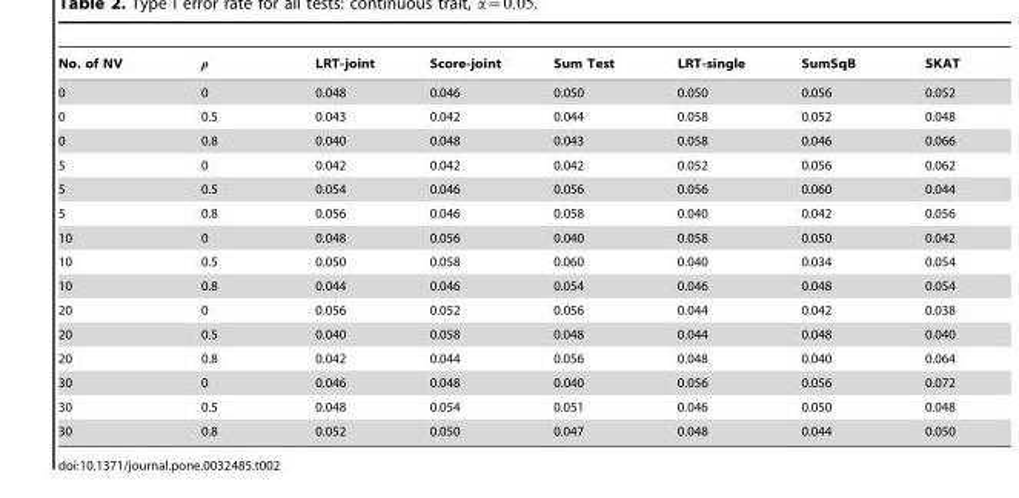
<table><thead><tr><td>No. of NV</td><td>r</td><td>LRT-joint</td><td>Score-joint</td><td>Sum Test</td><td>LRT-single</td><td>SumSqB</td><td>SKAT</td></tr></thead><tbody><tr><td>0</td><td>0</td><td>0.048</td><td>0.046</td><td>0.050</td><td>0.050</td><td>0.056</td><td>0.052</td></tr><tr><td>0</td><td>0.5</td><td>0.043</td><td>0.042</td><td>0.044</td><td>0.058</td><td>0.052</td><td>0.048</td></tr><tr><td>0</td><td>0.8</td><td>0.040</td><td>0.048</td><td>0.043</td><td>0.058</td><td>0.046</td><td>0.066</td></tr><tr><td>5</td><td>0</td><td>0.042</td><td>0.042</td><td>0.042</td><td>0.052</td><td>0.056</td><td>0.062</td></tr><tr><td>5</td><td>0.5</td><td>0.054</td><td>0.046</td><td>0.056</td><td>0.056</td><td>0.060</td><td>0.044</td></tr><tr><td>5</td><td>0.8</td><td>0.056</td><td>0.046</td><td>0.058</td><td>0.040</td><td>0.042</td><td>0.056</td></tr><tr><td>10</td><td>0</td><td>0.048</td><td>0.056</td><td>0.040</td><td>0.058</td><td>0.050</td><td>0.042</td></tr><tr><td>10</td><td>0.5</td><td>0.050</td><td>0.058</td><td>0.060</td><td>0.040</td><td>0.034</td><td>0.054</td></tr><tr><td>10</td><td>0.8</td><td>0.044</td><td>0.046</td><td>0.054</td><td>0.046</td><td>0.048</td><td>0.054</td></tr><tr><td>20</td><td>0</td><td>0.056</td><td>0.052</td><td>0.056</td><td>0.044</td><td>0.042</td><td>0.038</td></tr><tr><td>20</td><td>0.5</td><td>0.040</td><td>0.058</td><td>0.048</td><td>0.044</td><td>0.048</td><td>0.040</td></tr><tr><td>20</td><td>0.8</td><td>0.042</td><td>0.044</td><td>0.056</td><td>0.048</td><td>0.040</td><td>0.064</td></tr><tr><td>30</td><td>0</td><td>0.046</td><td>0.048</td><td>0.040</td><td>0.056</td><td>0.056</td><td>0.072</td></tr><tr><td>30</td><td>0.5</td><td>0.048</td><td>0.054</td><td>0.051</td><td>0.046</td><td>0.050</td><td>0.048</td></tr><tr><td>30</td><td>0.8</td><td>0.052</td><td>0.050</td><td>0.047</td><td>0.048</td><td>0.044</td><td>0.050</td></tr></tbody></table>